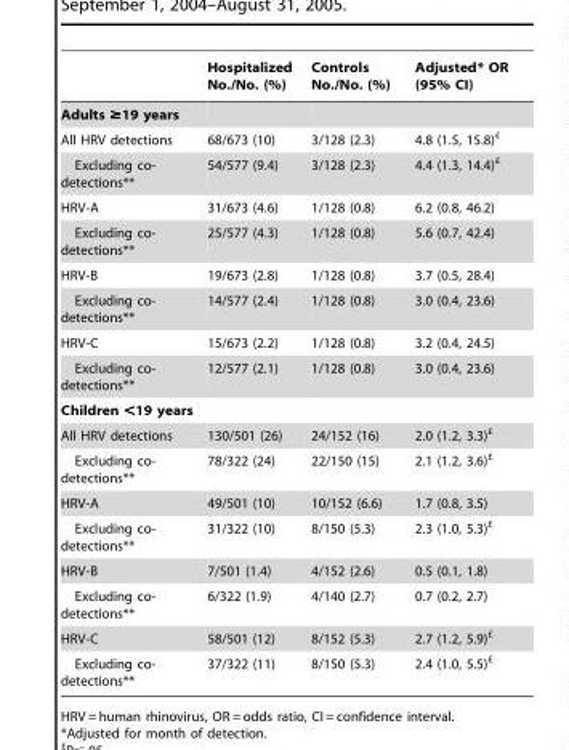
<table><thead><tr><td></td><td>Hospitalized No./No. (%)</td><td>Controls No./No. (%)</td><td>Adjusted* OR (95% CI)</td></tr></thead><tbody><tr><td colspan="4">Adults ≥19 years</td></tr><tr><td>All HRV detections</td><td>68/673 (10)</td><td>3/128 (2.3)</td><td>4.8 (1.5, 15.8)£</td></tr><tr><td>Excluding co- detections**</td><td>54/577 (9.4)</td><td>3/128 (2.3)</td><td>4.4 (1.3, 14.4)£</td></tr><tr><td>HRV-A</td><td>31/673 (4.6)</td><td>1/128 (0.8)</td><td>6.2 (0.8, 46.2)</td></tr><tr><td>Excluding co- detections**</td><td>25/577 (4.3)</td><td>1/128 (0.8)</td><td>5.6 (0.7, 42.4)</td></tr><tr><td>HRV-B</td><td>19/673 (2.8)</td><td>1/128 (0.8)</td><td>3.7 (0.5, 28.4)</td></tr><tr><td>Excluding co- detections**</td><td>14/577 (2.4)</td><td>1/128 (0.8)</td><td>3.0 (0.4, 23.6)</td></tr><tr><td>HRV-C</td><td>15/673 (2.2)</td><td>1/128 (0.8)</td><td>3.2 (0.4, 24.5)</td></tr><tr><td>Excluding co- detections**</td><td>12/577 (2.1)</td><td>1/128 (0.8)</td><td>3.0 (0.4, 23.6)</td></tr><tr><td colspan="4">Children &lt;19 years</td></tr><tr><td>All HRV detections</td><td>130/501 (26)</td><td>24/152 (16)</td><td>2.0 (1.2, 3.3)£</td></tr><tr><td>Excluding co- detections**</td><td>78/322 (24)</td><td>22/150 (15)</td><td>2.1 (1.2, 3.6)£</td></tr><tr><td>HRV-A</td><td>49/501 (10)</td><td>10/152 (6.6)</td><td>1.7 (0.8, 3.5)</td></tr><tr><td>Excluding co- detections**</td><td>31/322 (10)</td><td>8/150 (5.3)</td><td>2.3 (1.0, 5.3)£</td></tr><tr><td>HRV-B</td><td>7/501 (1.4)</td><td>4/152 (2.6)</td><td>0.5 (0.1, 1.8)</td></tr><tr><td>Excluding co- detections**</td><td>6/322 (1.9)</td><td>4/140 (2.7)</td><td>0.7 (0.2, 2.7)</td></tr><tr><td>HRV-C</td><td>58/501 (12)</td><td>8/152 (5.3)</td><td>2.7 (1.2, 5.9)£</td></tr><tr><td>Excluding co- detections**</td><td>37/322 (11)</td><td>8/150 (5.3)</td><td>2.4 (1.0, 5.5)£</td></tr></tbody></table>